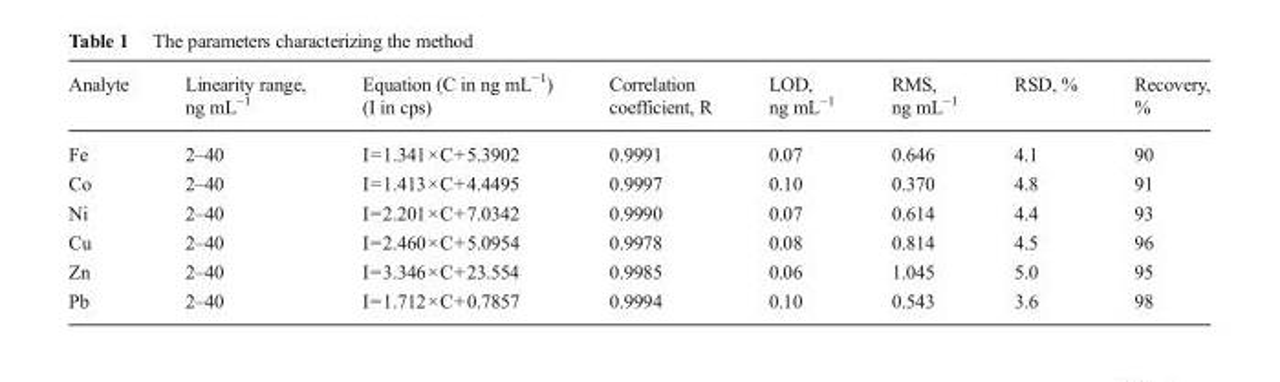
<table><thead><tr><td>Analyte</td><td>Linearity range, ng mL<sup>−1</sup></td><td>Equation (C in ng mL<sup>−1</sup>) (I in cps)</td><td>Correlation coefficient, R</td><td>LOD, ng mL<sup>−1</sup></td><td>RMS, ng mL<sup>−1</sup></td><td>RSD, %</td><td>Recovery, %</td></tr></thead><tbody><tr><td>Fe</td><td>2–40</td><td>I=1.341×C+5.3902</td><td>0.9991</td><td>0.07</td><td>0.646</td><td>4.1</td><td>90</td></tr><tr><td>Co</td><td>2–40</td><td>I=1.413×C+4.4495</td><td>0.9997</td><td>0.10</td><td>0.370</td><td>4.8</td><td>91</td></tr><tr><td>Ni</td><td>2–40</td><td>I=2.201×C+7.0342</td><td>0.9990</td><td>0.07</td><td>0.614</td><td>4.4</td><td>93</td></tr><tr><td>Cu</td><td>2–40</td><td>I=2.460×C+5.0954</td><td>0.9978</td><td>0.08</td><td>0.814</td><td>4.5</td><td>96</td></tr><tr><td>Zn</td><td>2–40</td><td>I=3.346×C+23.554</td><td>0.9985</td><td>0.06</td><td>1.045</td><td>5.0</td><td>95</td></tr><tr><td>Pb</td><td>2–40</td><td>I=1.712×C+0.7857</td><td>0.9994</td><td>0.10</td><td>0.543</td><td>3.6</td><td>98</td></tr></tbody></table>